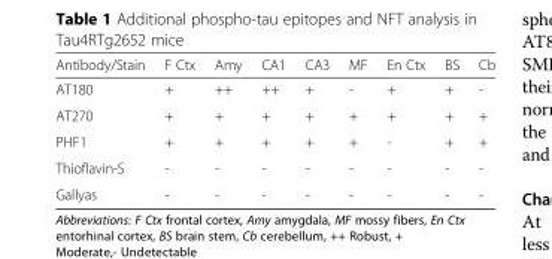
<table><thead><tr><td>Antibody/Stain</td><td>F Ctx</td><td>Amy</td><td>CA1</td><td>CA3</td><td>MF</td><td>En Ctx</td><td>BS</td><td>Cb</td></tr></thead><tbody><tr><td>AT180</td><td>+</td><td>++</td><td>++</td><td>+</td><td>-</td><td>+</td><td>+</td><td>-</td></tr><tr><td>AT270</td><td>+</td><td>+</td><td>+</td><td>+</td><td>+</td><td>+</td><td>+</td><td>+</td></tr><tr><td>PHF1</td><td>+</td><td>+</td><td>+</td><td>+</td><td>+</td><td>-</td><td>+</td><td>+</td></tr><tr><td>Thioflavin-S</td><td>-</td><td>-</td><td>-</td><td>-</td><td>-</td><td>-</td><td>-</td><td>-</td></tr><tr><td>Gallyas</td><td>-</td><td>-</td><td>-</td><td>-</td><td>-</td><td>-</td><td>-</td><td>-</td></tr></tbody></table>